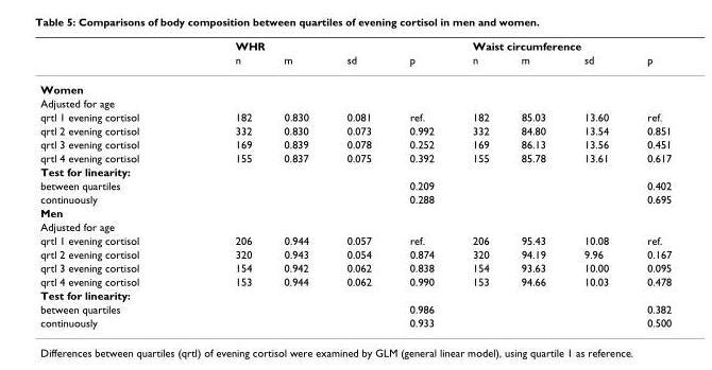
<table><thead><tr><td rowspan="2"></td><td colspan="4">WHR</td><td colspan="4">Waist circumference</td></tr><tr><td>n</td><td>m</td><td>sd</td><td>p</td><td>n</td><td>m</td><td>sd</td><td>p</td></tr></thead><tbody><tr><td colspan="9">Women</td></tr><tr><td colspan="9">Adjusted for age</td></tr><tr><td>qrtl 1 evening cortisol</td><td>182</td><td>0.830</td><td>0.081</td><td>ref.</td><td>182</td><td>85.03</td><td>13.60</td><td>ref.</td></tr><tr><td>qrtl 2 evening cortisol</td><td>332</td><td>0.830</td><td>0.073</td><td>0.992</td><td>332</td><td>84.80</td><td>13.54</td><td>0.851</td></tr><tr><td>qrtl 3 evening cortisol</td><td>169</td><td>0.839</td><td>0.078</td><td>0.252</td><td>169</td><td>86.13</td><td>13.56</td><td>0.451</td></tr><tr><td>qrtl 4 evening cortisol</td><td>155</td><td>0.837</td><td>0.075</td><td>0.392</td><td>155</td><td>85.78</td><td>13.61</td><td>0.617</td></tr><tr><td colspan="9">Test for linearity:</td></tr><tr><td>between quartiles</td><td></td><td></td><td></td><td>0.209</td><td></td><td></td><td></td><td>0.402</td></tr><tr><td>continuously</td><td></td><td></td><td></td><td>0.288</td><td></td><td></td><td></td><td>0.695</td></tr><tr><td colspan="9">Men</td></tr><tr><td colspan="9">Adjusted for age</td></tr><tr><td>qrtl 1 evening cortisol</td><td>206</td><td>0.944</td><td>0.057</td><td>ref.</td><td>206</td><td>95.43</td><td>10.08</td><td>ref.</td></tr><tr><td>qrtl 2 evening cortisol</td><td>320</td><td>0.943</td><td>0.054</td><td>0.874</td><td>320</td><td>94.19</td><td>9.96</td><td>0.167</td></tr><tr><td>qrtl 3 evening cortisol</td><td>154</td><td>0.942</td><td>0.062</td><td>0.838</td><td>154</td><td>93.63</td><td>10.00</td><td>0.095</td></tr><tr><td>qrtl 4 evening cortisol</td><td>153</td><td>0.944</td><td>0.062</td><td>0.990</td><td>153</td><td>94.66</td><td>10.03</td><td>0.478</td></tr><tr><td colspan="9">Test for linearity:</td></tr><tr><td>between quartiles</td><td></td><td></td><td></td><td>0.986</td><td></td><td></td><td></td><td>0.382</td></tr><tr><td>continuously</td><td></td><td></td><td></td><td>0.933</td><td></td><td></td><td></td><td>0.500</td></tr></tbody></table>